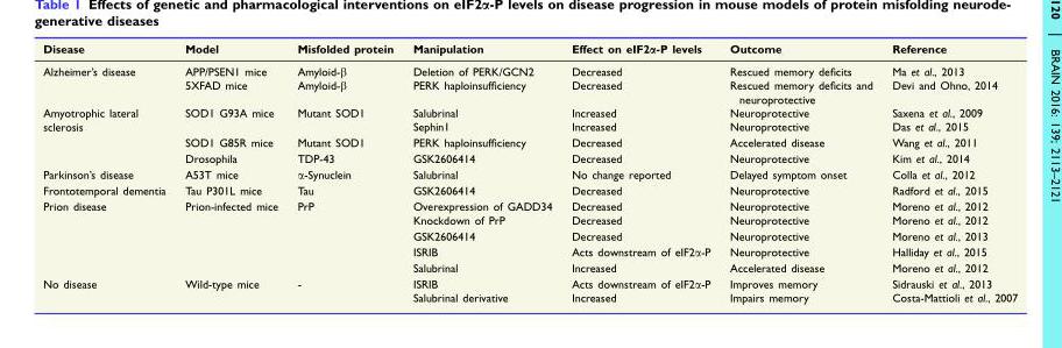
<table><thead><tr><td>Disease</td><td>Model</td><td>Misfolded protein</td><td>Manipulation</td><td>Effect on eIF2α-P levels</td><td>Outcome</td><td>Reference</td></tr></thead><tbody><tr><td rowspan="2">Alzheimer’s disease</td><td>APP/PSEN1 mice</td><td>Amyloid-β</td><td>Deletion of PERK/GCN2</td><td>Decreased</td><td>Rescued memory deficits</td><td>Ma et al., 2013</td></tr><tr><td>5XFAD mice</td><td>Amyloid-β</td><td>PERK haploinsufficiency</td><td>Decreased</td><td>Rescued memory deficits and neuroprotective</td><td>Devi and Ohno, 2014</td></tr><tr><td rowspan="4">Amyotrophic lateral sclerosis</td><td rowspan="2">SOD1 G93A mice</td><td rowspan="2">Mutant SOD1</td><td>Salubrinal</td><td>Increased</td><td>Neuroprotective</td><td>Saxena et al., 2009</td></tr><tr><td>Sephin1</td><td>Increased</td><td>Neuroprotective</td><td>Das et al., 2015</td></tr><tr><td>SOD1 G85R mice</td><td>Mutant SOD1</td><td>PERK haploinsufficiency</td><td>Decreased</td><td>Accelerated disease</td><td>Wang et al., 2011</td></tr><tr><td>Drosophila</td><td>TDP-43</td><td>GSK2606414</td><td>Decreased</td><td>Neuroprotective</td><td>Kim et al., 2014</td></tr><tr><td>Parkinson’s disease</td><td>A53T mice</td><td>α-Synuclein</td><td>Salubrinal</td><td>No change reported</td><td>Delayed symptom onset</td><td>Colla et al., 2012</td></tr><tr><td>Frontotemporal dementia</td><td>Tau P301L mice</td><td>Tau</td><td>GSK2606414</td><td>Decreased</td><td>Neuroprotective</td><td>Radford et al., 2015</td></tr><tr><td rowspan="5">Prion disease</td><td rowspan="5">Prion-infected mice</td><td rowspan="5">PrP</td><td>Overexpression of GADD34</td><td>Decreased</td><td>Neuroprotective</td><td>Moreno et al., 2012</td></tr><tr><td>Knockdown of PrP</td><td>Decreased</td><td>Neuroprotective</td><td>Moreno et al., 2012</td></tr><tr><td>GSK2606414</td><td>Decreased</td><td>Neuroprotective</td><td>Moreno et al., 2013</td></tr><tr><td>ISRIB</td><td>Acts downstream of eIF2α-P</td><td>Neuroprotective</td><td>Halliday et al., 2015</td></tr><tr><td>Salubrinal</td><td>Increased</td><td>Accelerated disease</td><td>Moreno et al., 2012</td></tr><tr><td rowspan="2">No disease</td><td rowspan="2">Wild-type mice</td><td rowspan="2">-</td><td>ISRIB</td><td>Acts downstream of eIF2α-P</td><td>Improves memory</td><td>Sidrauski et al., 2013</td></tr><tr><td>Salubrinal derivative</td><td>Increased</td><td>Impairs memory</td><td>Costa-Mattioli et al., 2007</td></tr></tbody></table>